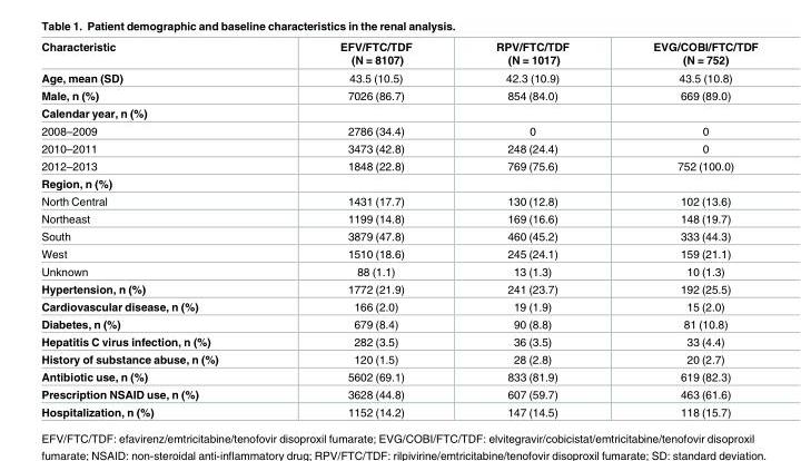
<table><thead><tr><td>Characteristic</td><td>EFV/FTC/TDF (N = 8107)</td><td>RPV/FTC/TDF (N = 1017)</td><td>EVG/COBI/FTC/TDF (N = 752)</td></tr></thead><tbody><tr><td>Age, mean (SD)</td><td>43.5 (10.5)</td><td>42.3 (10.9)</td><td>43.5 (10.8)</td></tr><tr><td>Male, n (%)</td><td>7026 (86.7)</td><td>854 (84.0)</td><td>669 (89.0)</td></tr><tr><td colspan="4">Calendar year, n (%)</td></tr><tr><td>2008–2009</td><td>2786 (34.4)</td><td>0</td><td>0</td></tr><tr><td>2010–2011</td><td>3473 (42.8)</td><td>248 (24.4)</td><td>0</td></tr><tr><td>2012–2013</td><td>1848 (22.8)</td><td>769 (75.6)</td><td>752 (100.0)</td></tr><tr><td colspan="4">Region, n (%)</td></tr><tr><td>North Central</td><td>1431 (17.7)</td><td>130 (12.8)</td><td>102 (13.6)</td></tr><tr><td>Northeast</td><td>1199 (14.8)</td><td>169 (16.6)</td><td>148 (19.7)</td></tr><tr><td>South</td><td>3879 (47.8)</td><td>460 (45.2)</td><td>333 (44.3)</td></tr><tr><td>West</td><td>1510 (18.6)</td><td>245 (24.1)</td><td>159 (21.1)</td></tr><tr><td>Unknown</td><td>88 (1.1)</td><td>13 (1.3)</td><td>10 (1.3)</td></tr><tr><td>Hypertension, n (%)</td><td>1772 (21.9)</td><td>241 (23.7)</td><td>192 (25.5)</td></tr><tr><td>Cardiovascular disease, n (%)</td><td>166 (2.0)</td><td>19 (1.9)</td><td>15 (2.0)</td></tr><tr><td>Diabetes, n (%)</td><td>679 (8.4)</td><td>90 (8.8)</td><td>81 (10.8)</td></tr><tr><td>Hepatitis C virus infection, n (%)</td><td>282 (3.5)</td><td>36 (3.5)</td><td>33 (4.4)</td></tr><tr><td>History of substance abuse, n (%)</td><td>120 (1.5)</td><td>28 (2.8)</td><td>20 (2.7)</td></tr><tr><td>Antibiotic use, n (%)</td><td>5602 (69.1)</td><td>833 (81.9)</td><td>619 (82.3)</td></tr><tr><td>Prescription NSAID use, n (%)</td><td>3628 (44.8)</td><td>607 (59.7)</td><td>463 (61.6)</td></tr><tr><td>Hospitalization, n (%)</td><td>1152 (14.2)</td><td>147 (14.5)</td><td>118 (15.7)</td></tr></tbody></table>